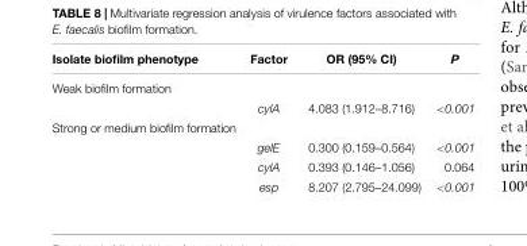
<table><thead><tr><td>Isolate biofilm phenotype</td><td>Factor</td><td>OR (95% CI)</td><td>P</td></tr></thead><tbody><tr><td colspan="4">Weak biofilm formation</td></tr><tr><td></td><td>cylA</td><td>4.083 (1.912–8.716)</td><td>&lt;0.001</td></tr><tr><td colspan="4">Strong or medium biofilm formation</td></tr><tr><td></td><td>gelE</td><td>0.300 (0.159–0.564)</td><td>&lt;0.001</td></tr><tr><td></td><td>cylA</td><td>0.393 (0.146–1.056)</td><td>0.064</td></tr><tr><td></td><td>esp</td><td>8.207 (2.795–24.099)</td><td>&lt;0.001</td></tr></tbody></table>